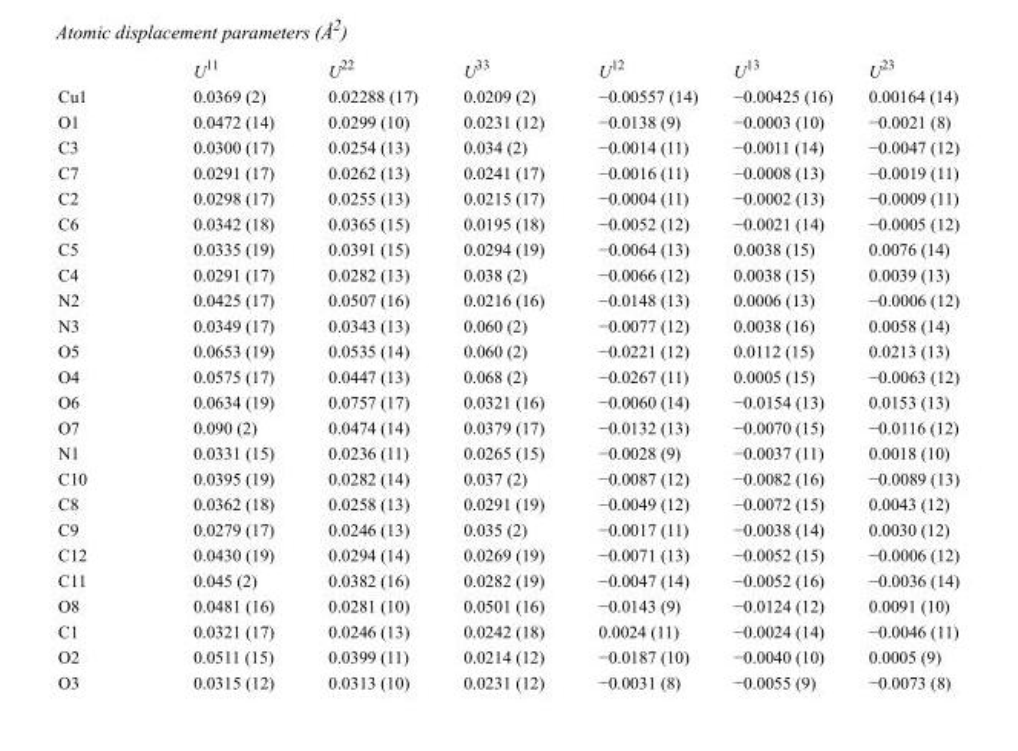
<table><thead><tr><td></td><td>U<sup>11</sup></td><td>U<sup>22</sup></td><td>U<sup>33</sup></td><td>U<sup>12</sup></td><td>U<sup>13</sup></td><td>U<sup>23</sup></td></tr></thead><tbody><tr><td>Cu1</td><td>0.0369 (2)</td><td>0.02288 (17)</td><td>0.0209 (2)</td><td>−0.00557 (14)</td><td>−0.00425 (16)</td><td>0.00164 (14)</td></tr><tr><td>O1</td><td>0.0472 (14)</td><td>0.0299 (10)</td><td>0.0231 (12)</td><td>−0.0138 (9)</td><td>−0.0003 (10)</td><td>−0.0021 (8)</td></tr><tr><td>C3</td><td>0.0300 (17)</td><td>0.0254 (13)</td><td>0.034 (2)</td><td>−0.0014 (11)</td><td>−0.0011 (14)</td><td>−0.0047 (12)</td></tr><tr><td>C7</td><td>0.0291 (17)</td><td>0.0262 (13)</td><td>0.0241 (17)</td><td>−0.0016 (11)</td><td>−0.0008 (13)</td><td>−0.0019 (11)</td></tr><tr><td>C2</td><td>0.0298 (17)</td><td>0.0255 (13)</td><td>0.0215 (17)</td><td>−0.0004 (11)</td><td>−0.0002 (13)</td><td>−0.0009 (11)</td></tr><tr><td>C6</td><td>0.0342 (18)</td><td>0.0365 (15)</td><td>0.0195 (18)</td><td>−0.0052 (12)</td><td>−0.0021 (14)</td><td>−0.0005 (12)</td></tr><tr><td>C5</td><td>0.0335 (19)</td><td>0.0391 (15)</td><td>0.0294 (19)</td><td>−0.0064 (13)</td><td>0.0038 (15)</td><td>0.0076 (14)</td></tr><tr><td>C4</td><td>0.0291 (17)</td><td>0.0282 (13)</td><td>0.038 (2)</td><td>−0.0066 (12)</td><td>0.0038 (15)</td><td>0.0039 (13)</td></tr><tr><td>N2</td><td>0.0425 (17)</td><td>0.0507 (16)</td><td>0.0216 (16)</td><td>−0.0148 (13)</td><td>0.0006 (13)</td><td>−0.0006 (12)</td></tr><tr><td>N3</td><td>0.0349 (17)</td><td>0.0343 (13)</td><td>0.060 (2)</td><td>−0.0077 (12)</td><td>0.0038 (16)</td><td>0.0058 (14)</td></tr><tr><td>O5</td><td>0.0653 (19)</td><td>0.0535 (14)</td><td>0.060 (2)</td><td>−0.0221 (12)</td><td>0.0112 (15)</td><td>0.0213 (13)</td></tr><tr><td>O4</td><td>0.0575 (17)</td><td>0.0447 (13)</td><td>0.068 (2)</td><td>−0.0267 (11)</td><td>0.0005 (15)</td><td>−0.0063 (12)</td></tr><tr><td>O6</td><td>0.0634 (19)</td><td>0.0757 (17)</td><td>0.0321 (16)</td><td>−0.0060 (14)</td><td>−0.0154 (13)</td><td>0.0153 (13)</td></tr><tr><td>O7</td><td>0.090 (2)</td><td>0.0474 (14)</td><td>0.0379 (17)</td><td>−0.0132 (13)</td><td>−0.0070 (15)</td><td>−0.0116 (12)</td></tr><tr><td>N1</td><td>0.0331 (15)</td><td>0.0236 (11)</td><td>0.0265 (15)</td><td>−0.0028 (9)</td><td>−0.0037 (11)</td><td>0.0018 (10)</td></tr><tr><td>C10</td><td>0.0395 (19)</td><td>0.0282 (14)</td><td>0.037 (2)</td><td>−0.0087 (12)</td><td>−0.0082 (16)</td><td>−0.0089 (13)</td></tr><tr><td>C8</td><td>0.0362 (18)</td><td>0.0258 (13)</td><td>0.0291 (19)</td><td>−0.0049 (12)</td><td>−0.0072 (15)</td><td>0.0043 (12)</td></tr><tr><td>C9</td><td>0.0279 (17)</td><td>0.0246 (13)</td><td>0.035 (2)</td><td>−0.0017 (11)</td><td>−0.0038 (14)</td><td>0.0030 (12)</td></tr><tr><td>C12</td><td>0.0430 (19)</td><td>0.0294 (14)</td><td>0.0269 (19)</td><td>−0.0071 (13)</td><td>−0.0052 (15)</td><td>−0.0006 (12)</td></tr><tr><td>C11</td><td>0.045 (2)</td><td>0.0382 (16)</td><td>0.0282 (19)</td><td>−0.0047 (14)</td><td>−0.0052 (16)</td><td>−0.0036 (14)</td></tr><tr><td>O8</td><td>0.0481 (16)</td><td>0.0281 (10)</td><td>0.0501 (16)</td><td>−0.0143 (9)</td><td>−0.0124 (12)</td><td>0.0091 (10)</td></tr><tr><td>C1</td><td>0.0321 (17)</td><td>0.0246 (13)</td><td>0.0242 (18)</td><td>0.0024 (11)</td><td>−0.0024 (14)</td><td>−0.0046 (11)</td></tr><tr><td>O2</td><td>0.0511 (15)</td><td>0.0399 (11)</td><td>0.0214 (12)</td><td>−0.0187 (10)</td><td>−0.0040 (10)</td><td>0.0005 (9)</td></tr><tr><td>O3</td><td>0.0315 (12)</td><td>0.0313 (10)</td><td>0.0231 (12)</td><td>−0.0031 (8)</td><td>−0.0055 (9)</td><td>−0.0073 (8)</td></tr></tbody></table>